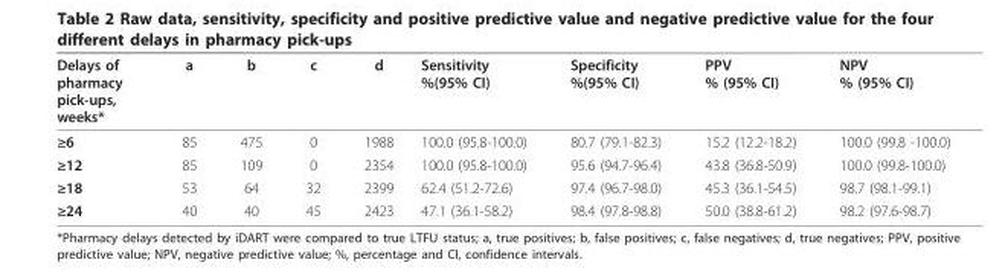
<table><thead><tr><td>Delays of pharmacy pick-ups, weeks*</td><td>a</td><td>b</td><td>c</td><td>d</td><td>Sensitivity %(95% CI)</td><td>Specificity %(95% CI)</td><td>PPV % (95% CI)</td><td>NPV % (95% CI)</td></tr></thead><tbody><tr><td>≥6</td><td>85</td><td>475</td><td>0</td><td>1988</td><td>100.0 (95.8-100.0)</td><td>80.7 (79.1-82.3)</td><td>15.2 (12.2-18.2)</td><td>100.0 (99.8 -100.0)</td></tr><tr><td>≥12</td><td>85</td><td>109</td><td>0</td><td>2354</td><td>100.0 (95.8-100.0)</td><td>95.6 (94.7-96.4)</td><td>43.8 (36.8-50.9)</td><td>100.0 (99.8-100.0)</td></tr><tr><td>≥18</td><td>53</td><td>64</td><td>32</td><td>2399</td><td>62.4 (51.2-72.6)</td><td>97.4 (96.7-98.0)</td><td>45.3 (36.1-54.5)</td><td>98.7 (98.1-99.1)</td></tr><tr><td>≥24</td><td>40</td><td>40</td><td>45</td><td>2423</td><td>47.1 (36.1-58.2)</td><td>98.4 (97.8-98.8)</td><td>50.0 (38.8-61.2)</td><td>98.2 (97.6-98.7)</td></tr></tbody></table>